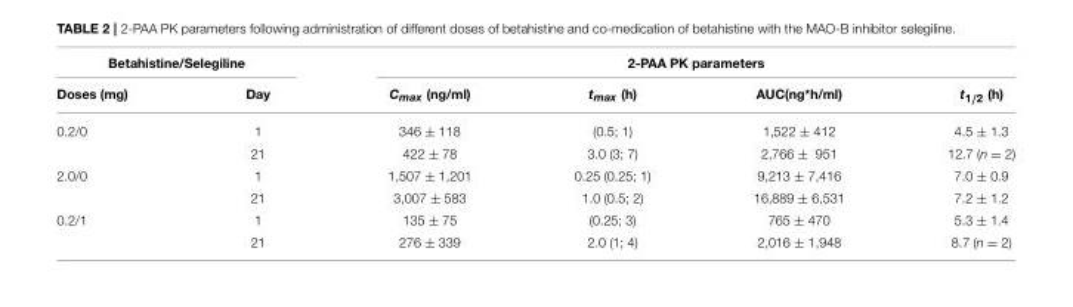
<table><thead><tr><td colspan="2">Betahistine/Selegiline</td><td colspan="4">2-PAA PK parameters</td></tr><tr><td>Doses (mg)</td><td>Day</td><td>C<sub>max</sub> (ng/ml)</td><td>t<sub>max</sub> (h)</td><td>AUC(ng*h/ml)</td><td>t<sub>1/2</sub> (h)</td></tr></thead><tbody><tr><td rowspan="2">0.2/0</td><td>1</td><td>346 ± 118</td><td>(0.5; 1)</td><td>1,522 ± 412</td><td>4.5 ± 1.3</td></tr><tr><td>21</td><td>422 ± 78</td><td>3.0 (3; 7)</td><td>2,766 ± 951</td><td>12.7 (n = 2)</td></tr><tr><td rowspan="2">2.0/0</td><td>1</td><td>1,507 ± 1,201</td><td>0.25 (0.25; 1)</td><td>9,213 ± 7,416</td><td>7.0 ± 0.9</td></tr><tr><td>21</td><td>3,007 ± 583</td><td>1.0 (0.5; 2)</td><td>16,889 ± 6,531</td><td>7.2 ± 1.2</td></tr><tr><td rowspan="2">0.2/1</td><td>1</td><td>135 ± 75</td><td>(0.25; 3)</td><td>765 ± 470</td><td>5.3 ± 1.4</td></tr><tr><td>21</td><td>276 ± 339</td><td>2.0 (1; 4)</td><td>2,016 ± 1,948</td><td>8.7 (n = 2)</td></tr></tbody></table>